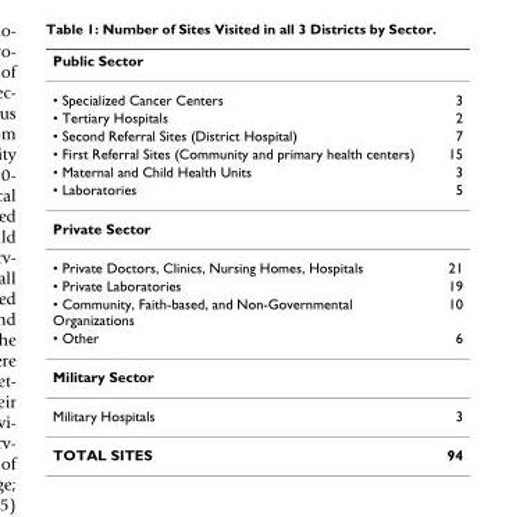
<table><thead><tr><td colspan="2">Public Sector</td></tr><tr><td>• Specialized Cancer Centers</td><td>3</td></tr></thead><tbody><tr><td>• Tertiary Hospitals</td><td>2</td></tr><tr><td>• Second Referral Sites (District Hospital)</td><td>7</td></tr><tr><td>• First Referral Sites (Community and primary health centers)</td><td>15</td></tr><tr><td>• Maternal and Child Health Units</td><td>3</td></tr><tr><td>• Laboratories</td><td>5</td></tr><tr><td colspan="2">Private Sector</td></tr><tr><td>• Private Doctors, Clinics, Nursing Homes, Hospitals</td><td>21</td></tr><tr><td>• Private Laboratories</td><td>19</td></tr><tr><td>• Community, Faith-based, and Non-Governmental Organizations</td><td>10</td></tr><tr><td>• Other</td><td>6</td></tr><tr><td colspan="2">Military Sector</td></tr><tr><td>Military Hospitals</td><td>3</td></tr><tr><td>TOTAL SITES</td><td>94</td></tr></tbody></table>